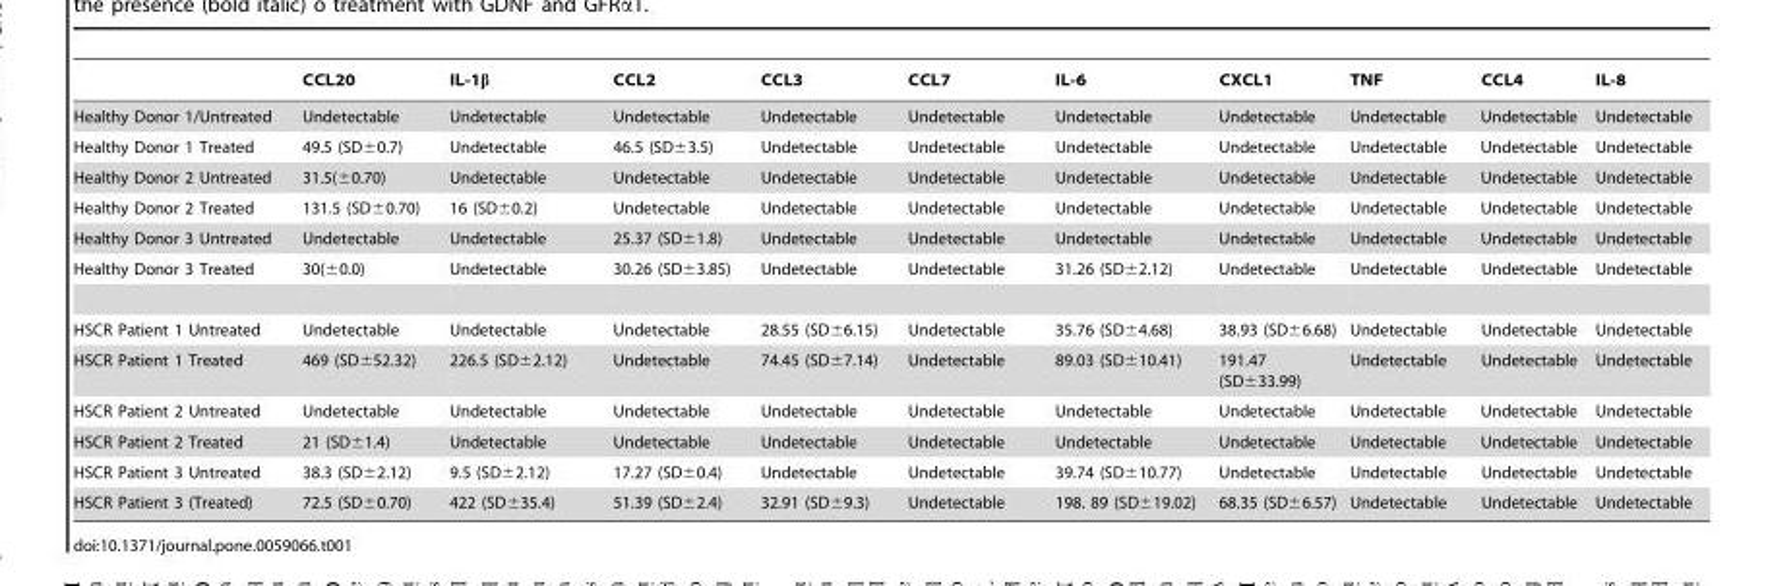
<table><thead><tr><td></td><td>CCL20</td><td>IL-1β</td><td>CCL2</td><td>CCL3</td><td>CCL7</td><td>IL-6</td><td>CXCL1</td><td>TNF</td><td>CCL4</td><td>IL-8</td></tr></thead><tbody><tr><td>Healthy Donor 1/Untreated</td><td>Undetectable</td><td>Undetectable</td><td>Undetectable</td><td>Undetectable</td><td>Undetectable</td><td>Undetectable</td><td>Undetectable</td><td>Undetectable</td><td>Undetectable</td><td>Undetectable</td></tr><tr><td>Healthy Donor 1 Treated</td><td>49.5 (SD±0.7)</td><td>Undetectable</td><td>46.5 (SD±3.5)</td><td>Undetectable</td><td>Undetectable</td><td>Undetectable</td><td>Undetectable</td><td>Undetectable</td><td>Undetectable</td><td>Undetectable</td></tr><tr><td>Healthy Donor 2 Untreated</td><td>31.5(±0.70)</td><td>Undetectable</td><td>Undetectable</td><td>Undetectable</td><td>Undetectable</td><td>Undetectable</td><td>Undetectable</td><td>Undetectable</td><td>Undetectable</td><td>Undetectable</td></tr><tr><td>Healthy Donor 2 Treated</td><td>131.5 (SD±0.70)</td><td>16 (SD±0.2)</td><td>Undetectable</td><td>Undetectable</td><td>Undetectable</td><td>Undetectable</td><td>Undetectable</td><td>Undetectable</td><td>Undetectable</td><td>Undetectable</td></tr><tr><td>Healthy Donor 3 Untreated</td><td>Undetectable</td><td>Undetectable</td><td>25.37 (SD±1.8)</td><td>Undetectable</td><td>Undetectable</td><td>Undetectable</td><td>Undetectable</td><td>Undetectable</td><td>Undetectable</td><td>Undetectable</td></tr><tr><td>Healthy Donor 3 Treated</td><td>30(±0.0)</td><td>Undetectable</td><td>30.26 (SD±3.85)</td><td>Undetectable</td><td>Undetectable</td><td>31.26 (SD±2.12)</td><td>Undetectable</td><td>Undetectable</td><td>Undetectable</td><td>Undetectable</td></tr><tr><td>HSCR Patient 1 Untreated</td><td>Undetectable</td><td>Undetectable</td><td>Undetectable</td><td>28.55 (SD±6.15)</td><td>Undetectable</td><td>35.76 (SD±4.68)</td><td>38.93 (SD±6.68)</td><td>Undetectable</td><td>Undetectable</td><td>Undetectable</td></tr><tr><td>HSCR Patient 1 Treated</td><td>469 (SD±52.32)</td><td>226.5 (SD±2.12)</td><td>Undetectable</td><td>74.45 (SD±7.14)</td><td>Undetectable</td><td>89.03 (SD±10.41)</td><td>191.47 (SD±33.99)</td><td>Undetectable</td><td>Undetectable</td><td>Undetectable</td></tr><tr><td>HSCR Patient 2 Untreated</td><td>Undetectable</td><td>Undetectable</td><td>Undetectable</td><td>Undetectable</td><td>Undetectable</td><td>Undetectable</td><td>Undetectable</td><td>Undetectable</td><td>Undetectable</td><td>Undetectable</td></tr><tr><td>HSCR Patient 2 Treated</td><td>21 (SD±1.4)</td><td>Undetectable</td><td>Undetectable</td><td>Undetectable</td><td>Undetectable</td><td>Undetectable</td><td>Undetectable</td><td>Undetectable</td><td>Undetectable</td><td>Undetectable</td></tr><tr><td>HSCR Patient 3 Untreated</td><td>38.3 (SD±2.12)</td><td>9.5 (SD±2.12)</td><td>17.27 (SD±0.4)</td><td>Undetectable</td><td>Undetectable</td><td>39.74 (SD±10.77)</td><td>Undetectable</td><td>Undetectable</td><td>Undetectable</td><td>Undetectable</td></tr><tr><td>HSCR Patient 3 (Treated)</td><td>72.5 (SD±0.70)</td><td>422 (SD±35.4)</td><td>51.39 (SD±2.4)</td><td>32.91 (SD±9.3)</td><td>Undetectable</td><td>198. 89 (SD±19.02)</td><td>68.35 (SD±6.57)</td><td>Undetectable</td><td>Undetectable</td><td>Undetectable</td></tr></tbody></table>